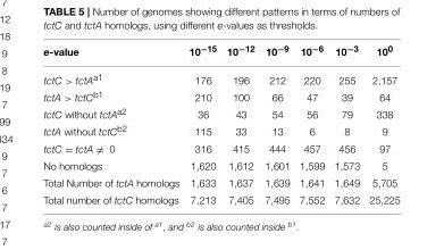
<table><thead><tr><td>e-value</td><td>10<sup>−15</sup></td><td>10<sup>−12</sup></td><td>10<sup>−9</sup></td><td>10<sup>−6</sup></td><td>10<sup>−3</sup></td><td>10<sup>0</sup></td></tr></thead><tbody><tr><td>tctC &gt; tctA<sup>a1</sup></td><td>176</td><td>196</td><td>212</td><td>220</td><td>255</td><td>2,157</td></tr><tr><td>tctA &gt; tctC<sup>b1</sup></td><td>210</td><td>100</td><td>66</td><td>47</td><td>39</td><td>64</td></tr><tr><td>tctC without tctA<sup>a2</sup></td><td>36</td><td>43</td><td>54</td><td>56</td><td>79</td><td>338</td></tr><tr><td>tctA without tctC<sup>b2</sup></td><td>115</td><td>33</td><td>13</td><td>6</td><td>8</td><td>9</td></tr><tr><td>tctC = tctA ̸= 0</td><td>316</td><td>415</td><td>444</td><td>457</td><td>456</td><td>97</td></tr><tr><td>No homologs</td><td>1,620</td><td>1,612</td><td>1,601</td><td>1,599</td><td>1,573</td><td>5</td></tr><tr><td>Total Number of tctA homologs</td><td>1,633</td><td>1,637</td><td>1,639</td><td>1,641</td><td>1,649</td><td>5,705</td></tr><tr><td>Total number of tctC homologs</td><td>7,213</td><td>7,405</td><td>7,495</td><td>7,552</td><td>7,632</td><td>25,225</td></tr></tbody></table>